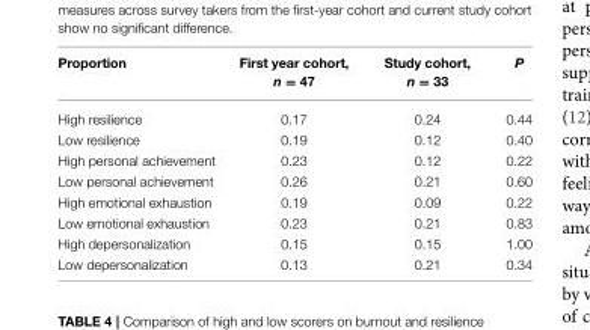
<table><thead><tr><td>Proportion</td><td>First year cohort, n = 47</td><td>Study cohort, n = 33</td><td>P</td></tr></thead><tbody><tr><td>High resilience</td><td>0.17</td><td>0.24</td><td>0.44</td></tr><tr><td>Low resilience</td><td>0.19</td><td>0.12</td><td>0.40</td></tr><tr><td>High personal achievement</td><td>0.23</td><td>0.12</td><td>0.22</td></tr><tr><td>Low personal achievement</td><td>0.26</td><td>0.21</td><td>0.60</td></tr><tr><td>High emotional exhaustion</td><td>0.19</td><td>0.09</td><td>0.22</td></tr><tr><td>Low emotional exhaustion</td><td>0.23</td><td>0.21</td><td>0.83</td></tr><tr><td>High depersonalization</td><td>0.15</td><td>0.15</td><td>1.00</td></tr><tr><td>Low depersonalization</td><td>0.13</td><td>0.21</td><td>0.34</td></tr></tbody></table>